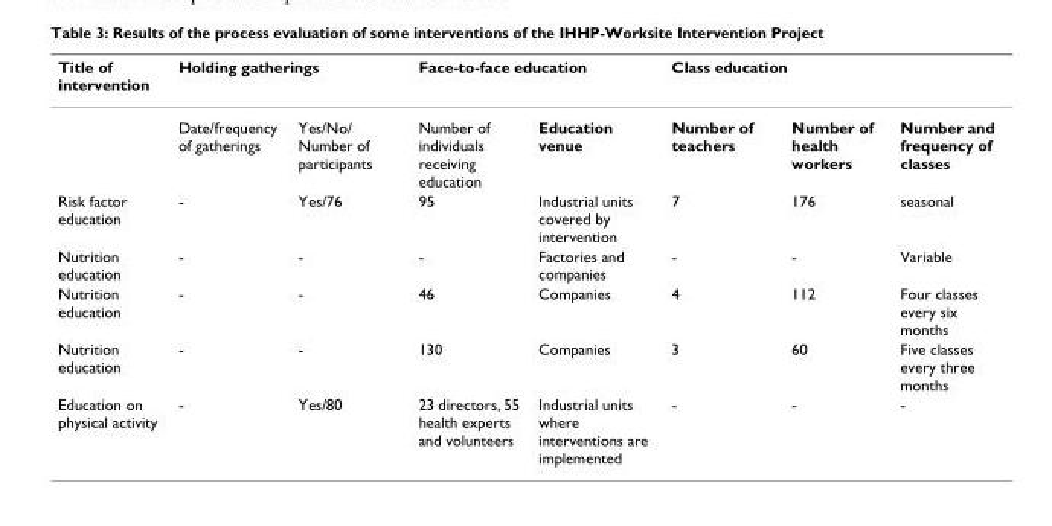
<table><thead><tr><td rowspan="2">Title of intervention</td><td colspan="2">Holding gatherings</td><td colspan="2">Face-to-face education</td><td colspan="3">Class education</td></tr><tr><td>Date/frequency of gatherings</td><td>Yes/No/ Number of participants</td><td>Number of individuals receiving education</td><td>Education venue</td><td>Number of teachers</td><td>Number of health workers</td><td>Number and frequency of classes</td></tr></thead><tbody><tr><td>Risk factor education</td><td>-</td><td>Yes/76</td><td>95</td><td>Industrial units covered by intervention</td><td>7</td><td>176</td><td>seasonal</td></tr><tr><td>Nutrition education</td><td>-</td><td>-</td><td>-</td><td>Factories and companies</td><td>-</td><td>-</td><td>Variable</td></tr><tr><td>Nutrition education</td><td>-</td><td>-</td><td>46</td><td>Companies</td><td>4</td><td>112</td><td>Four classes every six months</td></tr><tr><td>Nutrition education</td><td>-</td><td>-</td><td>130</td><td>Companies</td><td>3</td><td>60</td><td>Five classes every three months</td></tr><tr><td>Education on physical activity</td><td>-</td><td>Yes/80</td><td>23 directors, 55 health experts and volunteers</td><td>Industrial units where interventions are implemented</td><td>-</td><td>-</td><td>-</td></tr></tbody></table>